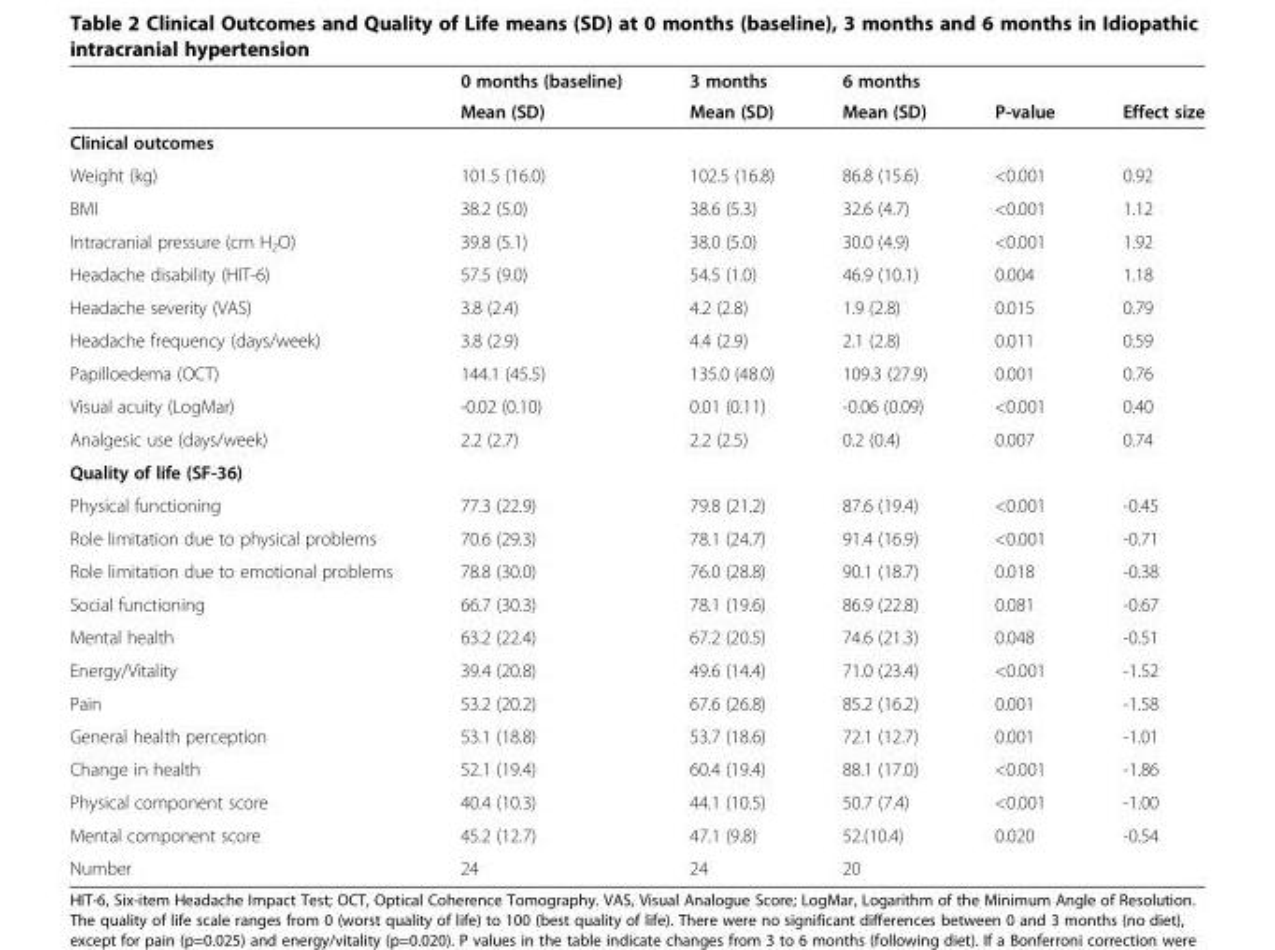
<table><thead><tr><td rowspan="2"></td><td rowspan="2">0 months (baseline) Mean (SD)</td><td rowspan="2">3 months Mean (SD)</td><td rowspan="2">6 months Mean (SD)</td><td rowspan="2">P-value</td><td rowspan="2">Effect size</td></tr><tr></tr></thead><tbody><tr><td colspan="6">Clinical outcomes</td></tr><tr><td>Weight (kg)</td><td>101.5 (16.0)</td><td>102.5 (16.8)</td><td>86.8 (15.6)</td><td>&lt;0.001</td><td>0.92</td></tr><tr><td>BMI</td><td>38.2 (5.0)</td><td>38.6 (5.3)</td><td>32.6 (4.7)</td><td>&lt;0.001</td><td>1.12</td></tr><tr><td>Intracranial pressure (cm H<sub>2</sub>O)</td><td>39.8 (5.1)</td><td>38.0 (5.0)</td><td>30.0 (4.9)</td><td>&lt;0.001</td><td>1.92</td></tr><tr><td>Headache disability (HIT-6)</td><td>57.5 (9.0)</td><td>54.5 (1.0)</td><td>46.9 (10.1)</td><td>0.004</td><td>1.18</td></tr><tr><td>Headache severity (VAS)</td><td>3.8 (2.4)</td><td>4.2 (2.8)</td><td>1.9 (2.8)</td><td>0.015</td><td>0.79</td></tr><tr><td>Headache frequency (days/week)</td><td>3.8 (2.9)</td><td>4.4 (2.9)</td><td>2.1 (2.8)</td><td>0.011</td><td>0.59</td></tr><tr><td>Papilloedema (OCT)</td><td>144.1 (45.5)</td><td>135.0 (48.0)</td><td>109.3 (27.9)</td><td>0.001</td><td>0.76</td></tr><tr><td>Visual acuity (LogMar)</td><td>-0.02 (0.10)</td><td>0.01 (0.11)</td><td>-0.06 (0.09)</td><td>&lt;0.001</td><td>0.40</td></tr><tr><td>Analgesic use (days/week)</td><td>2.2 (2.7)</td><td>2.2 (2.5)</td><td>0.2 (0.4)</td><td>0.007</td><td>0.74</td></tr><tr><td colspan="6">Quality of life (SF-36)</td></tr><tr><td>Physical functioning</td><td>77.3 (22.9)</td><td>79.8 (21.2)</td><td>87.6 (19.4)</td><td>&lt;0.001</td><td>-0.45</td></tr><tr><td>Role limitation due to physical problems</td><td>70.6 (29.3)</td><td>78.1 (24.7)</td><td>91.4 (16.9)</td><td>&lt;0.001</td><td>-0.71</td></tr><tr><td>Role limitation due to emotional problems</td><td>78.8 (30.0)</td><td>76.0 (28.8)</td><td>90.1 (18.7)</td><td>0.018</td><td>-0.38</td></tr><tr><td>Social functioning</td><td>66.7 (30.3)</td><td>78.1 (19.6)</td><td>86.9 (22.8)</td><td>0.081</td><td>-0.67</td></tr><tr><td>Mental health</td><td>63.2 (22.4)</td><td>67.2 (20.5)</td><td>74.6 (21.3)</td><td>0.048</td><td>-0.51</td></tr><tr><td>Energy/Vitality</td><td>39.4 (20.8)</td><td>49.6 (14.4)</td><td>71.0 (23.4)</td><td>&lt;0.001</td><td>-1.52</td></tr><tr><td>Pain</td><td>53.2 (20.2)</td><td>67.6 (26.8)</td><td>85.2 (16.2)</td><td>0.001</td><td>-1.58</td></tr><tr><td>General health perception</td><td>53.1 (18.8)</td><td>53.7 (18.6)</td><td>72.1 (12.7)</td><td>0.001</td><td>-1.01</td></tr><tr><td>Change in health</td><td>52.1 (19.4)</td><td>60.4 (19.4)</td><td>88.1 (17.0)</td><td>&lt;0.001</td><td>-1.86</td></tr><tr><td>Physical component score</td><td>40.4 (10.3)</td><td>44.1 (10.5)</td><td>50.7 (7.4)</td><td>&lt;0.001</td><td>-1.00</td></tr><tr><td>Mental component score</td><td>45.2 (12.7)</td><td>47.1 (9.8)</td><td>52.(10.4)</td><td>0.020</td><td>-0.54</td></tr><tr><td>Number</td><td>24</td><td>24</td><td>20</td><td></td><td></td></tr></tbody></table>